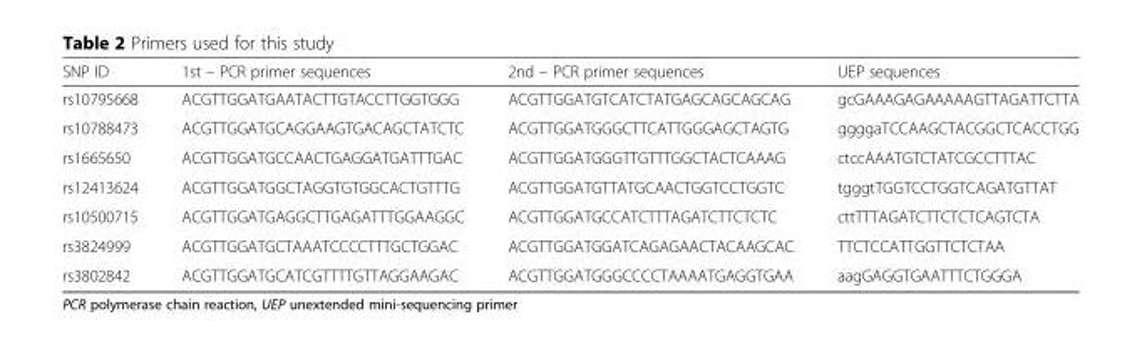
<table><thead><tr><td>SNP ID</td><td>1st – PCR primer sequences</td><td>2nd – PCR primer sequences</td><td>UEP sequences</td></tr></thead><tbody><tr><td>rs10795668</td><td>ACGTTGGATGAATACTTGTACCTTGGTGGG</td><td>ACGTTGGATGTCATCTATGAGCAGCAGCAG</td><td>gcGAAAGAGAAAAAGTTAGATTCTTA</td></tr><tr><td>rs10788473</td><td>ACGTTGGATGCAGGAAGTGACAGCTATCTC</td><td>ACGTTGGATGGGCTTCATTGGGAGCTAGTG</td><td>ggggaTCCAAGCTACGGCTCACCTGG</td></tr><tr><td>rs1665650</td><td>ACGTTGGATGCCAACTGAGGATGATTTGAC</td><td>ACGTTGGATGGGTTGTTTGGCTACTCAAAG</td><td>ctccAAATGTCTATCGCCTTTAC</td></tr><tr><td>rs12413624</td><td>ACGTTGGATGGCTAGGTGTGGCACTGTTTG</td><td>ACGTTGGATGTTATGCAACTGGTCCTGGTC</td><td>tgggtTGGTCCTGGTCAGATGTTAT</td></tr><tr><td>rs10500715</td><td>ACGTTGGATGAGGCTTGAGATTTGGAAGGC</td><td>ACGTTGGATGCCATCTTTAGATCTTCTCTC</td><td>cttTTTAGATCTTCTCTCAGTCTA</td></tr><tr><td>rs3824999</td><td>ACGTTGGATGCTAAATCCCCTTTGCTGGAC</td><td>ACGTTGGATGGATCAGAGAACTACAAGCAC</td><td>TTCTCCATTGGTTCTCTAA</td></tr><tr><td>rs3802842</td><td>ACGTTGGATGCATCGTTTTGTTAGGAAGAC</td><td>ACGTTGGATGGGCCCCTAAAATGAGGTGAA</td><td>aagGAGGTGAATTTCTGGGA</td></tr></tbody></table>